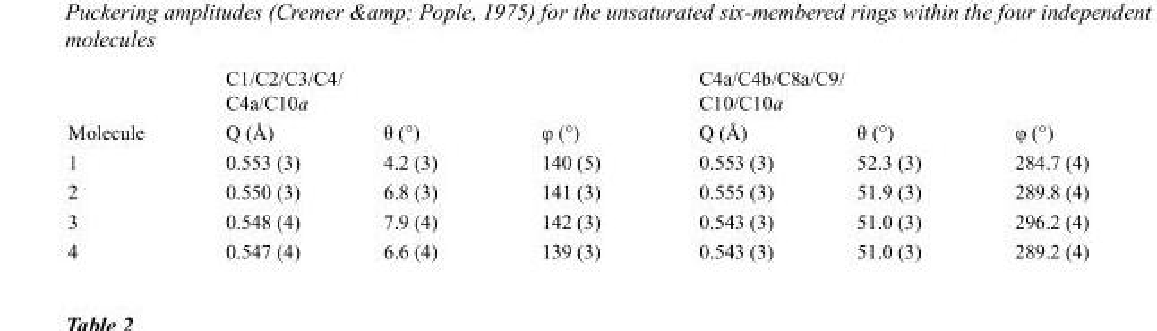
<table><thead><tr><td></td><td>C1/C2/C3/C4/ C4a/C10a</td><td></td><td></td><td>C4a/C4b/C8a/C9/ C10/C10a</td><td></td><td></td></tr></thead><tbody><tr><td>Molecule</td><td>Q (Å)</td><td>θ (°)</td><td>φ (°)</td><td>Q (Å)</td><td>θ (°)</td><td>φ (°)</td></tr><tr><td>1</td><td>0.553 (3)</td><td>4.2 (3)</td><td>140 (5)</td><td>0.553 (3)</td><td>52.3 (3)</td><td>284.7 (4)</td></tr><tr><td>2</td><td>0.550 (3)</td><td>6.8 (3)</td><td>141 (3)</td><td>0.555 (3)</td><td>51.9 (3)</td><td>289.8 (4)</td></tr><tr><td>3</td><td>0.548 (4)</td><td>7.9 (4)</td><td>142 (3)</td><td>0.543 (3)</td><td>51.0 (3)</td><td>296.2 (4)</td></tr><tr><td>4</td><td>0.547 (4)</td><td>6.6 (4)</td><td>139 (3)</td><td>0.543 (3)</td><td>51.0 (3)</td><td>289.2 (4)</td></tr></tbody></table>